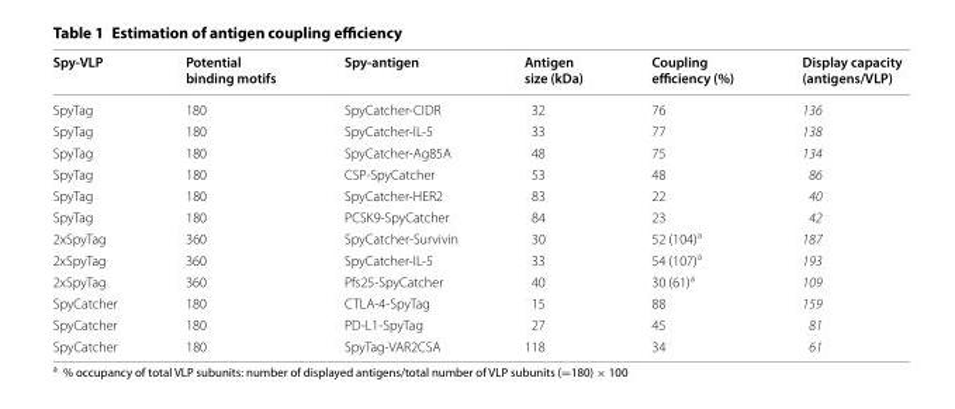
<table><thead><tr><td>Spy‑VLP</td><td>Potential binding motifs</td><td>Spy‑antigen</td><td>Antigen size (kDa)</td><td>Coupling efficiency (%)</td><td>Display capacity (antigens/VLP)</td></tr></thead><tbody><tr><td>SpyTag</td><td>180</td><td>SpyCatcher‑CIDR</td><td>32</td><td>76</td><td>136</td></tr><tr><td>SpyTag</td><td>180</td><td>SpyCatcher‑IL‑5</td><td>33</td><td>77</td><td>138</td></tr><tr><td>SpyTag</td><td>180</td><td>SpyCatcher‑Ag85A</td><td>48</td><td>75</td><td>134</td></tr><tr><td>SpyTag</td><td>180</td><td>CSP‑SpyCatcher</td><td>53</td><td>48</td><td>86</td></tr><tr><td>SpyTag</td><td>180</td><td>SpyCatcher‑HER2</td><td>83</td><td>22</td><td>40</td></tr><tr><td>SpyTag</td><td>180</td><td>PCSK9‑SpyCatcher</td><td>84</td><td>23</td><td>42</td></tr><tr><td>2xSpyTag</td><td>360</td><td>SpyCatcher‑Survivin</td><td>30</td><td>52 (104)<sup>a</sup></td><td>187</td></tr><tr><td>2xSpyTag</td><td>360</td><td>SpyCatcher‑IL‑5</td><td>33</td><td>54 (107)<sup>a</sup></td><td>193</td></tr><tr><td>2xSpyTag</td><td>360</td><td>Pfs25‑SpyCatcher</td><td>40</td><td>30 (61)<sup>a</sup></td><td>109</td></tr><tr><td>SpyCatcher</td><td>180</td><td>CTLA‑4‑SpyTag</td><td>15</td><td>88</td><td>159</td></tr><tr><td>SpyCatcher</td><td>180</td><td>PD‑L1‑SpyTag</td><td>27</td><td>45</td><td>81</td></tr><tr><td>SpyCatcher</td><td>180</td><td>SpyTag‑VAR2CSA</td><td>118</td><td>34</td><td>61</td></tr></tbody></table>